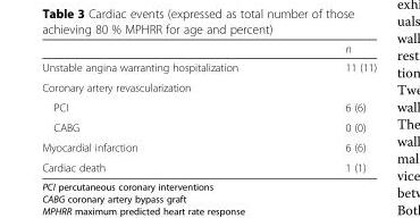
<table><thead><tr><td></td><td>n</td></tr></thead><tbody><tr><td>Unstable angina warranting hospitalization</td><td>11 (11)</td></tr><tr><td colspan="2">Coronary artery revascularization</td></tr><tr><td>PCI</td><td>6 (6)</td></tr><tr><td>CABG</td><td>0 (0)</td></tr><tr><td>Myocardial infarction</td><td>6 (6)</td></tr><tr><td>Cardiac death</td><td>1 (1)</td></tr></tbody></table>